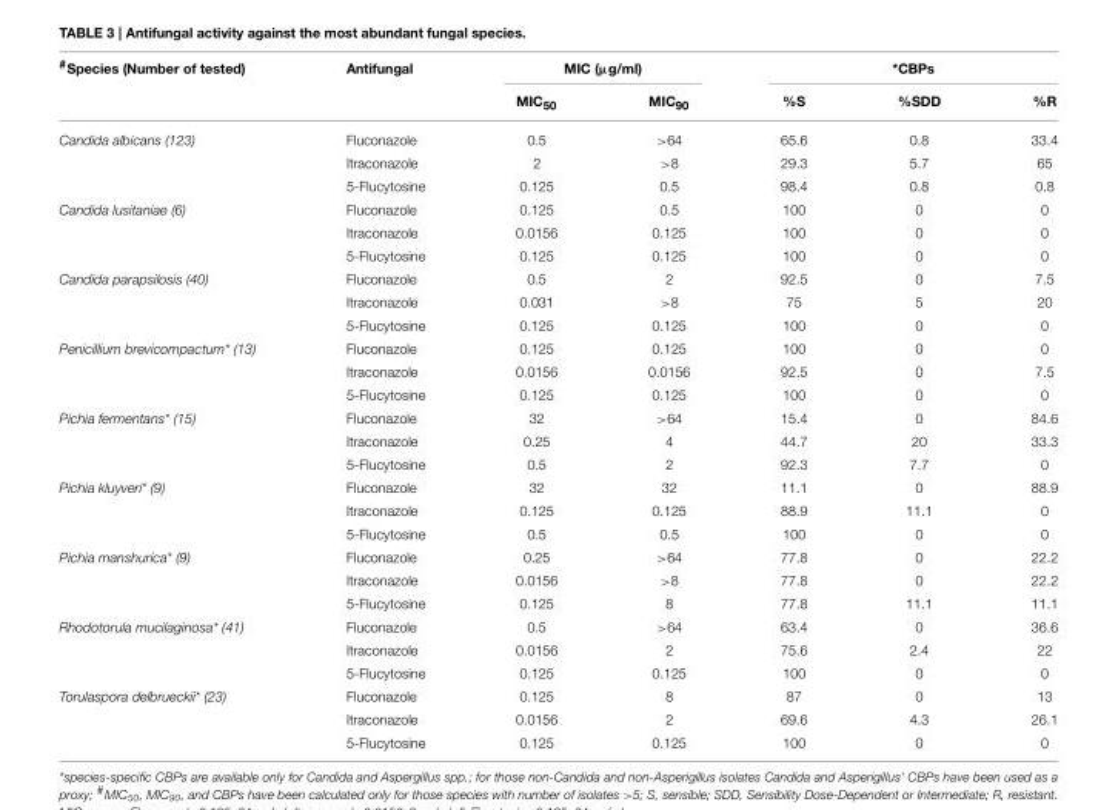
<table><thead><tr><td rowspan="2"><sup>#</sup>Species (Number of tested)</td><td rowspan="2">Antifungal</td><td colspan="2">MIC (µg/ml)</td><td colspan="3">*CBPs</td></tr><tr><td>MIC<sub>50</sub></td><td>MIC<sub>90</sub></td><td>%S</td><td>%SDD</td><td>%R</td></tr></thead><tbody><tr><td rowspan="3">Candida albicans (123)</td><td>Fluconazole</td><td>0.5</td><td>&gt;64</td><td>65.6</td><td>0.8</td><td>33.4</td></tr><tr><td>Itraconazole</td><td>2</td><td>&gt;8</td><td>29.3</td><td>5.7</td><td>65</td></tr><tr><td>5-Flucytosine</td><td>0.125</td><td>0.5</td><td>98.4</td><td>0.8</td><td>0.8</td></tr><tr><td rowspan="3">Candida lusitaniae (6)</td><td>Fluconazole</td><td>0.125</td><td>0.5</td><td>100</td><td>0</td><td>0</td></tr><tr><td>Itraconazole</td><td>0.0156</td><td>0.125</td><td>100</td><td>0</td><td>0</td></tr><tr><td>5-Flucytosine</td><td>0.125</td><td>0.125</td><td>100</td><td>0</td><td>0</td></tr><tr><td rowspan="3">Candida parapsilosis (40)</td><td>Fluconazole</td><td>0.5</td><td>2</td><td>92.5</td><td>0</td><td>7.5</td></tr><tr><td>Itraconazole</td><td>0.031</td><td>&gt;8</td><td>75</td><td>5</td><td>20</td></tr><tr><td>5-Flucytosine</td><td>0.125</td><td>0.125</td><td>100</td><td>0</td><td>0</td></tr><tr><td rowspan="3">Penicillium brevicompactum* (13)</td><td>Fluconazole</td><td>0.125</td><td>0.125</td><td>100</td><td>0</td><td>0</td></tr><tr><td>Itraconazole</td><td>0.0156</td><td>0.0156</td><td>92.5</td><td>0</td><td>7.5</td></tr><tr><td>5-Flucytosine</td><td>0.125</td><td>0.125</td><td>100</td><td>0</td><td>0</td></tr><tr><td rowspan="3">Pichia fermentans* (15)</td><td>Fluconazole</td><td>32</td><td>&gt;64</td><td>15.4</td><td>0</td><td>84.6</td></tr><tr><td>Itraconazole</td><td>0.25</td><td>4</td><td>44.7</td><td>20</td><td>33.3</td></tr><tr><td>5-Flucytosine</td><td>0.5</td><td>2</td><td>92.3</td><td>7.7</td><td>0</td></tr><tr><td rowspan="3">Pichia kluyveri* (9)</td><td>Fluconazole</td><td>32</td><td>32</td><td>11.1</td><td>0</td><td>88.9</td></tr><tr><td>Itraconazole</td><td>0.125</td><td>0.125</td><td>88.9</td><td>11.1</td><td>0</td></tr><tr><td>5-Flucytosine</td><td>0.5</td><td>0.5</td><td>100</td><td>0</td><td>0</td></tr><tr><td rowspan="3">Pichia manshurica* (9)</td><td>Fluconazole</td><td>0.25</td><td>&gt;64</td><td>77.8</td><td>0</td><td>22.2</td></tr><tr><td>Itraconazole</td><td>0.0156</td><td>&gt;8</td><td>77.8</td><td>0</td><td>22.2</td></tr><tr><td>5-Flucytosine</td><td>0.125</td><td>8</td><td>77.8</td><td>11.1</td><td>11.1</td></tr><tr><td rowspan="3">Rhodotorula mucilaginosa* (41)</td><td>Fluconazole</td><td>0.5</td><td>&gt;64</td><td>63.4</td><td>0</td><td>36.6</td></tr><tr><td>Itraconazole</td><td>0.0156</td><td>2</td><td>75.6</td><td>2.4</td><td>22</td></tr><tr><td>5-Flucytosine</td><td>0.125</td><td>0.125</td><td>100</td><td>0</td><td>0</td></tr><tr><td rowspan="3">Torulaspora delbrueckii* (23)</td><td>Fluconazole</td><td>0.125</td><td>8</td><td>87</td><td>0</td><td>13</td></tr><tr><td>Itraconazole</td><td>0.0156</td><td>2</td><td>69.6</td><td>4.3</td><td>26.1</td></tr><tr><td>5-Flucytosine</td><td>0.125</td><td>0.125</td><td>100</td><td>0</td><td>0</td></tr></tbody></table>